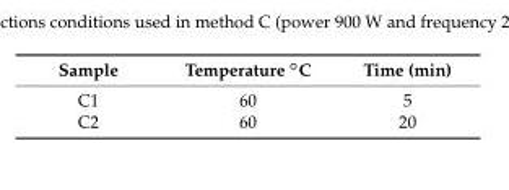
<table><thead><tr><td>Sample</td><td>Temperature ◦C</td><td>Time (min)</td></tr></thead><tbody><tr><td>C1</td><td>60</td><td>5</td></tr><tr><td>C2</td><td>60</td><td>20</td></tr></tbody></table>